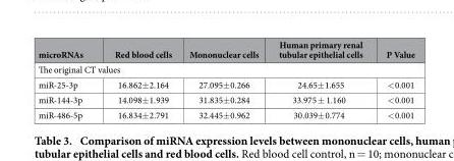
<table><thead><tr><td>microRNAs</td><td>Red blood cells</td><td>Mononuclear cells</td><td>Human primary renal tubular epithelial cells</td><td>P Value</td></tr></thead><tbody><tr><td colspan="5">The original CT values</td></tr><tr><td>miR-25-3p</td><td>16.862± 2.164</td><td>27.095± 0.266</td><td>24.65± 1.655</td><td>&lt; 0.001</td></tr><tr><td>miR-144-3p</td><td>14.098± 1.939</td><td>31.835± 0.284</td><td>33.975 ± 1.160</td><td>&lt; 0.001</td></tr><tr><td>miR-486-5p</td><td>16.834± 2.791</td><td>32.445± 0.962</td><td>30.039± 0.774</td><td>&lt; 0.001</td></tr></tbody></table>